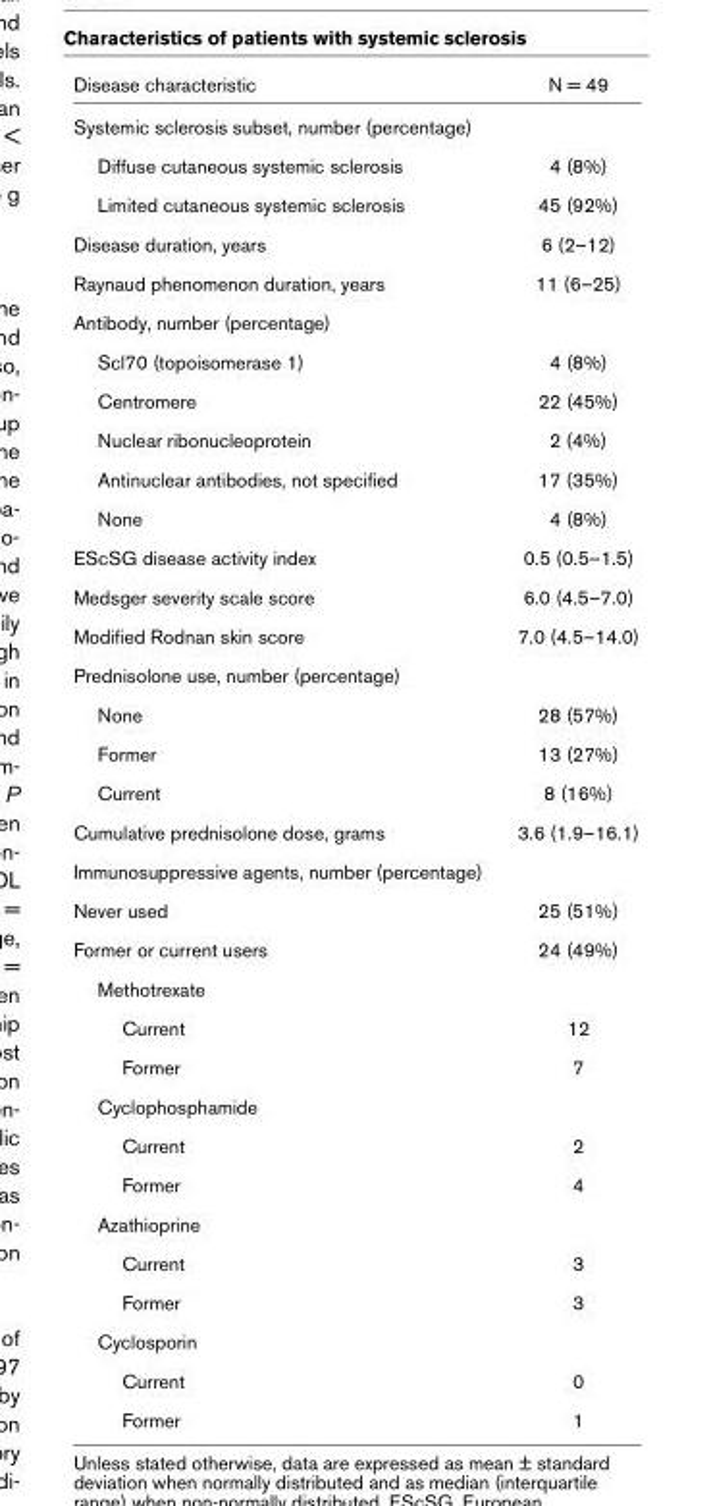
<table><thead><tr><td>Disease characteristic</td><td>N = 49</td></tr></thead><tbody><tr><td colspan="2">Systemic sclerosis subset, number (percentage)</td></tr><tr><td>Diffuse cutaneous systemic sclerosis</td><td>4 (8%)</td></tr><tr><td>Limited cutaneous systemic sclerosis</td><td>45 (92%)</td></tr><tr><td>Disease duration, years</td><td>6 (2–12)</td></tr><tr><td>Raynaud phenomenon duration, years</td><td>11 (6–25)</td></tr><tr><td colspan="2">Antibody, number (percentage)</td></tr><tr><td>Scl70 (topoisomerase 1)</td><td>4 (8%)</td></tr><tr><td>Centromere</td><td>22 (45%)</td></tr><tr><td>Nuclear ribonucleoprotein</td><td>2 (4%)</td></tr><tr><td>Antinuclear antibodies, not specified</td><td>17 (35%)</td></tr><tr><td>None</td><td>4 (8%)</td></tr><tr><td>EScSG disease activity index</td><td>0.5 (0.5–1.5)</td></tr><tr><td>Medsger severity scale score</td><td>6.0 (4.5–7.0)</td></tr><tr><td>Modified Rodnan skin score</td><td>7.0 (4.5–14.0)</td></tr><tr><td colspan="2">Prednisolone use, number (percentage)</td></tr><tr><td>None</td><td>28 (57%)</td></tr><tr><td>Former</td><td>13 (27%)</td></tr><tr><td>Current</td><td>8 (16%)</td></tr><tr><td>Cumulative prednisolone dose, grams</td><td>3.6 (1.9–16.1)</td></tr><tr><td colspan="2">Immunosuppressive agents, number (percentage)</td></tr><tr><td>Never used</td><td>25 (51%)</td></tr><tr><td>Former or current users</td><td>24 (49%)</td></tr><tr><td colspan="2">Methotrexate</td></tr><tr><td>Current</td><td>12</td></tr><tr><td>Former</td><td>7</td></tr><tr><td colspan="2">Cyclophosphamide</td></tr><tr><td>Current</td><td>2</td></tr><tr><td>Former</td><td>4</td></tr><tr><td colspan="2">Azathioprine</td></tr><tr><td>Current</td><td>3</td></tr><tr><td>Former</td><td>3</td></tr><tr><td colspan="2">Cyclosporin</td></tr><tr><td>Current</td><td>0</td></tr><tr><td>Former</td><td>1</td></tr></tbody></table>